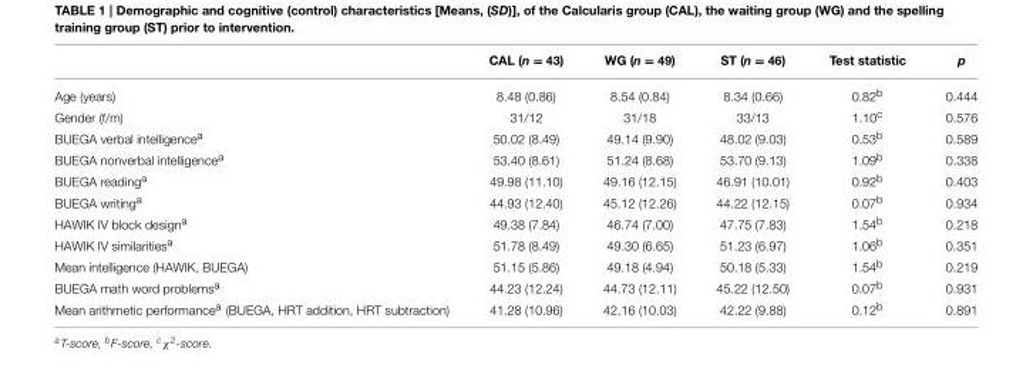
<table><thead><tr><td></td><td>CAL (n = 43)</td><td>WG (n = 49)</td><td>ST (n = 46)</td><td>Test statistic</td><td>p</td></tr></thead><tbody><tr><td>Age (years)</td><td>8.48 (0.86)</td><td>8.54 (0.84)</td><td>8.34 (0.66)</td><td>0.82<sup>b</sup></td><td>0.444</td></tr><tr><td>Gender (f/m)</td><td>31/12</td><td>31/18</td><td>33/13</td><td>1.10<sup>c</sup></td><td>0.576</td></tr><tr><td>BUEGA verbal intelligence<sup>a</sup></td><td>50.02 (8.49)</td><td>49.14 (9.90)</td><td>48.02 (9.03)</td><td>0.53<sup>b</sup></td><td>0.589</td></tr><tr><td>BUEGA nonverbal intelligence<sup>a</sup></td><td>53.40 (8.61)</td><td>51.24 (8.68)</td><td>53.70 (9.13)</td><td>1.09<sup>b</sup></td><td>0.338</td></tr><tr><td>BUEGA reading<sup>a</sup></td><td>49.98 (11.10)</td><td>49.16 (12.15)</td><td>46.91 (10.01)</td><td>0.92<sup>b</sup></td><td>0.403</td></tr><tr><td>BUEGA writing<sup>a</sup></td><td>44.93 (12.40)</td><td>45.12 (12.26)</td><td>44.22 (12.15)</td><td>0.07<sup>b</sup></td><td>0.934</td></tr><tr><td>HAWIK IV block design<sup>a</sup></td><td>49.38 (7.84)</td><td>46.74 (7.00)</td><td>47.75 (7.83)</td><td>1.54<sup>b</sup></td><td>0.218</td></tr><tr><td>HAWIK IV similarities<sup>a</sup></td><td>51.78 (8.49)</td><td>49.30 (6.65)</td><td>51.23 (6.97)</td><td>1.06<sup>b</sup></td><td>0.351</td></tr><tr><td>Mean intelligence (HAWIK, BUEGA)</td><td>51.15 (5.86)</td><td>49.18 (4.94)</td><td>50.18 (5.33)</td><td>1.54<sup>b</sup></td><td>0.219</td></tr><tr><td>BUEGA math word problems<sup>a</sup></td><td>44.23 (12.24)</td><td>44.73 (12.11)</td><td>45.22 (12.50)</td><td>0.07<sup>b</sup></td><td>0.931</td></tr><tr><td>Mean arithmetic performance<sup>a</sup> (BUEGA, HRT addition, HRT subtraction)</td><td>41.28 (10.96)</td><td>42.16 (10.03)</td><td>42.22 (9.88)</td><td>0.12<sup>b</sup></td><td>0.891</td></tr></tbody></table>